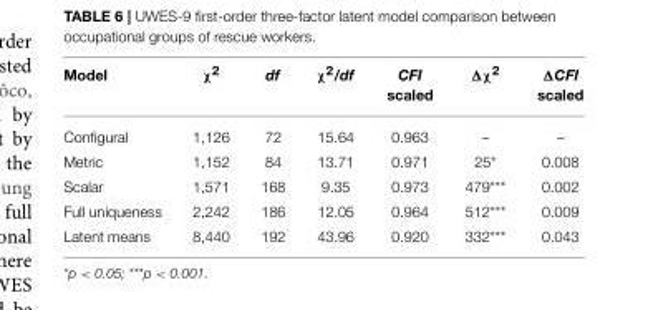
<table><thead><tr><td>Model</td><td>χ<sup>2</sup></td><td>df</td><td>χ<sup>2</sup>/df</td><td>CFI scaled</td><td>Δχ<sup>2</sup></td><td>ΔCFI scaled</td></tr></thead><tbody><tr><td>Configural</td><td>1,126</td><td>72</td><td>15.64</td><td>0.963</td><td>–</td><td>–</td></tr><tr><td>Metric</td><td>1,152</td><td>84</td><td>13.71</td><td>0.971</td><td>25*</td><td>0.008</td></tr><tr><td>Scalar</td><td>1,571</td><td>168</td><td>9.35</td><td>0.973</td><td>479***</td><td>0.002</td></tr><tr><td>Full uniqueness</td><td>2,242</td><td>186</td><td>12.05</td><td>0.964</td><td>512***</td><td>0.009</td></tr><tr><td>Latent means</td><td>8,440</td><td>192</td><td>43.96</td><td>0.920</td><td>332***</td><td>0.043</td></tr></tbody></table>